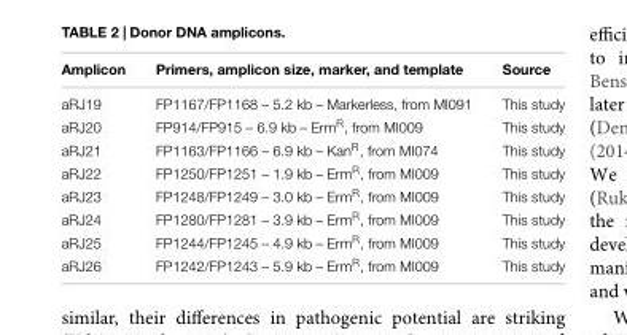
<table><thead><tr><td>Amplicon</td><td>Primers, amplicon size, marker, and template</td><td>Source</td></tr></thead><tbody><tr><td>aRJ19</td><td>FP1167/FP1168 – 5.2 kb – Markerless, from MI091</td><td>This study</td></tr><tr><td>aRJ20</td><td>FP914/FP915 – 6.9 kb – Erm<sup>R</sup>, from MI009</td><td>This study</td></tr><tr><td>aRJ21</td><td>FP1163/FP1166 – 6.9 kb – Kan<sup>R</sup>, from MI074</td><td>This study</td></tr><tr><td>aRJ22</td><td>FP1250/FP1251 – 1.9 kb – Erm<sup>R</sup>, from MI009</td><td>This study</td></tr><tr><td>aRJ23</td><td>FP1248/FP1249 – 3.0 kb – Erm<sup>R</sup>, from MI009</td><td>This study</td></tr><tr><td>aRJ24</td><td>FP1280/FP1281 – 3.9 kb – Erm<sup>R</sup>, from MI009</td><td>This study</td></tr><tr><td>aRJ25</td><td>FP1244/FP1245 – 4.9 kb – Erm<sup>R</sup>, from MI009</td><td>This study</td></tr><tr><td>aRJ26</td><td>FP1242/FP1243 – 5.9 kb – Erm<sup>R</sup>, from MI009</td><td>This study</td></tr></tbody></table>